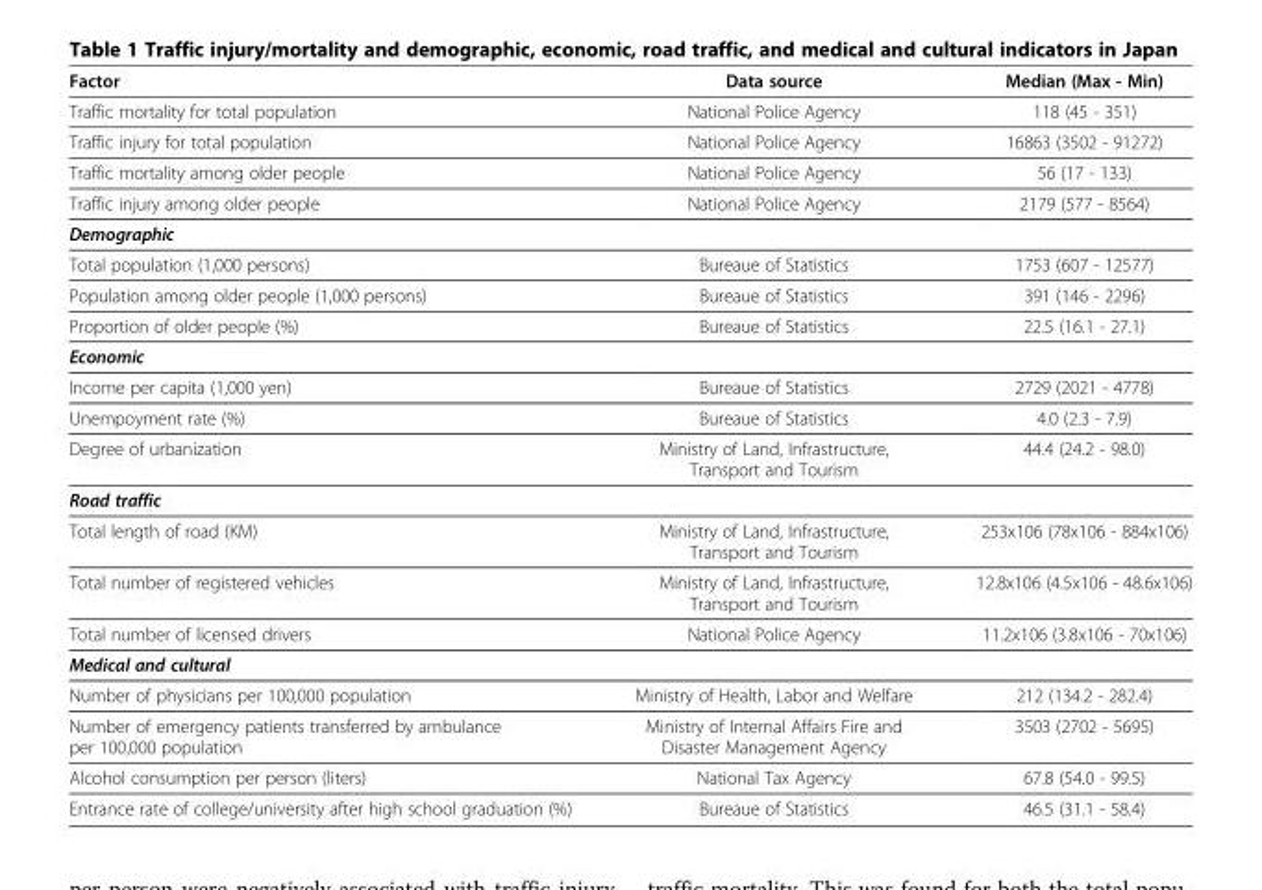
<table><thead><tr><td>Factor</td><td>Data source</td><td>Median (Max - Min)</td></tr></thead><tbody><tr><td>Traffic mortality for total population</td><td>National Police Agency</td><td>118 (45 - 351)</td></tr><tr><td>Traffic injury for total population</td><td>National Police Agency</td><td>16863 (3502 - 91272)</td></tr><tr><td>Traffic mortality among older people</td><td>National Police Agency</td><td>56 (17 - 133)</td></tr><tr><td>Traffic injury among older people</td><td>National Police Agency</td><td>2179 (577 - 8564)</td></tr><tr><td colspan="3">Demographic</td></tr><tr><td>Total population (1,000 persons)</td><td>Bureaue of Statistics</td><td>1753 (607 - 12577)</td></tr><tr><td>Population among older people (1,000 persons)</td><td>Bureaue of Statistics</td><td>391 (146 - 2296)</td></tr><tr><td>Proportion of older people (%)</td><td>Bureaue of Statistics</td><td>22.5 (16.1 - 27.1)</td></tr><tr><td colspan="3">Economic</td></tr><tr><td>Income per capita (1,000 yen)</td><td>Bureaue of Statistics</td><td>2729 (2021 - 4778)</td></tr><tr><td>Unempoyment rate (%)</td><td>Bureaue of Statistics</td><td>4.0 (2.3 - 7.9)</td></tr><tr><td>Degree of urbanization</td><td>Ministry of Land, Infrastructure, Transport and Tourism</td><td>44.4 (24.2 - 98.0)</td></tr><tr><td colspan="3">Road traffic</td></tr><tr><td>Total length of road (KM)</td><td>Ministry of Land, Infrastructure, Transport and Tourism</td><td>253x106 (78x106 - 884x106)</td></tr><tr><td>Total number of registered vehicles</td><td>Ministry of Land, Infrastructure, Transport and Tourism</td><td>12.8x106 (4.5x106 - 48.6x106)</td></tr><tr><td>Total number of licensed drivers</td><td>National Police Agency</td><td>11.2x106 (3.8x106 - 70x106)</td></tr><tr><td colspan="3">Medical and cultural</td></tr><tr><td>Number of physicians per 100,000 population</td><td>Ministry of Health, Labor and Welfare</td><td>212 (134.2 - 282.4)</td></tr><tr><td>Number of emergency patients transferred by ambulance per 100,000 population</td><td>Ministry of Internal Affairs Fire and Disaster Management Agency</td><td>3503 (2702 - 5695)</td></tr><tr><td>Alcohol consumption per person (liters)</td><td>National Tax Agency</td><td>67.8 (54.0 - 99.5)</td></tr><tr><td>Entrance rate of college/university after high school graduation (%)</td><td>Bureaue of Statistics</td><td>46.5 (31.1 - 58.4)</td></tr></tbody></table>